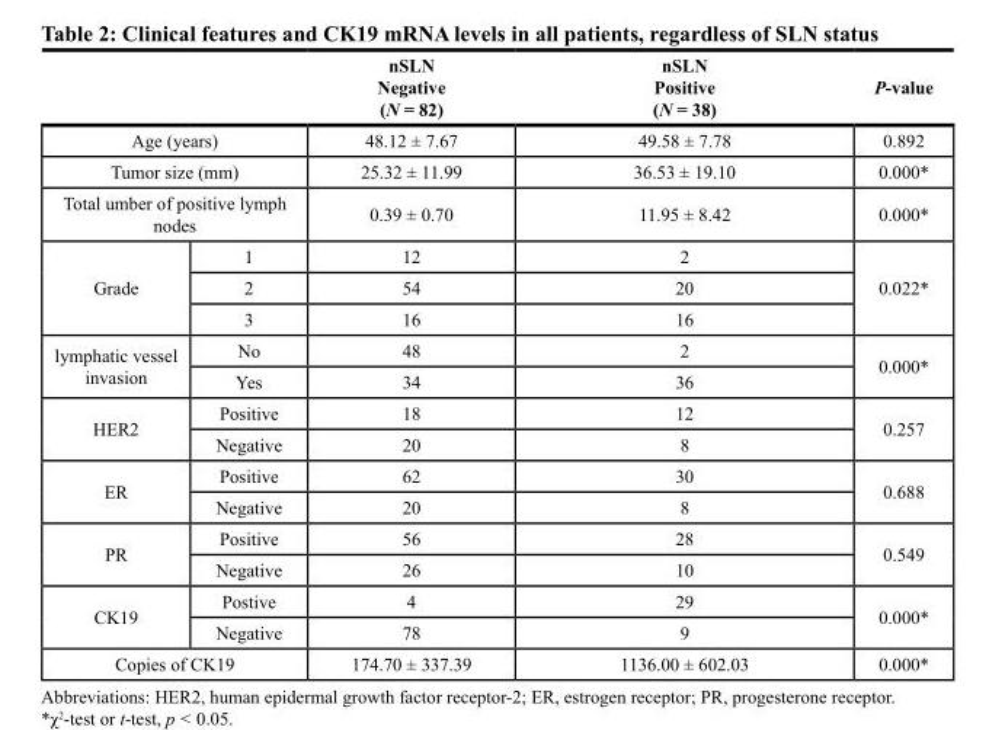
<table><thead><tr><td></td><td></td><td>nSLN Negative (N = 82)</td><td>nSLN Positive (N = 38)</td><td>P-value</td></tr></thead><tbody><tr><td colspan="2">Age (years)</td><td>48.12 ± 7.67</td><td>49.58 ± 7.78</td><td>0.892</td></tr><tr><td colspan="2">Tumor size (mm)</td><td>25.32 ± 11.99</td><td>36.53 ± 19.10</td><td>0.000*</td></tr><tr><td colspan="2">Total umber of positive lymph nodes</td><td>0.39 ± 0.70</td><td>11.95 ± 8.42</td><td>0.000*</td></tr><tr><td rowspan="3">Grade</td><td>1</td><td>12</td><td>2</td><td rowspan="3">0.022*</td></tr><tr><td>2</td><td>54</td><td>20</td></tr><tr><td>3</td><td>16</td><td>16</td></tr><tr><td rowspan="2">lymphatic vessel invasion</td><td>No</td><td>48</td><td>2</td><td rowspan="2">0.000*</td></tr><tr><td>Yes</td><td>34</td><td>36</td></tr><tr><td rowspan="2">HER2</td><td>Positive</td><td>18</td><td>12</td><td rowspan="2">0.257</td></tr><tr><td>Negative</td><td>20</td><td>8</td></tr><tr><td rowspan="2">ER</td><td>Positive</td><td>62</td><td>30</td><td rowspan="2">0.688</td></tr><tr><td>Negative</td><td>20</td><td>8</td></tr><tr><td rowspan="2">PR</td><td>Positive</td><td>56</td><td>28</td><td rowspan="2">0.549</td></tr><tr><td>Negative</td><td>26</td><td>10</td></tr><tr><td rowspan="2">CK19</td><td>Postive</td><td>4</td><td>29</td><td rowspan="2">0.000*</td></tr><tr><td>Negative</td><td>78</td><td>9</td></tr><tr><td colspan="2">Copies of CK19</td><td>174.70 ± 337.39</td><td>1136.00 ± 602.03</td><td>0.000*</td></tr></tbody></table>